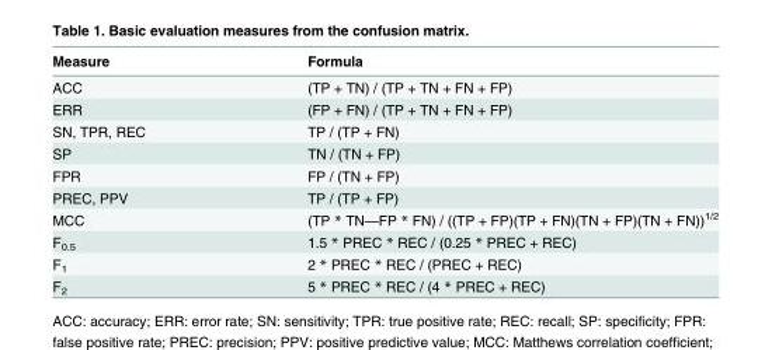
<table><thead><tr><td>Measure</td><td>Formula</td></tr></thead><tbody><tr><td>ACC</td><td>(TP + TN) / (TP + TN + FN + FP)</td></tr><tr><td>ERR</td><td>(FP + FN) / (TP + TN + FN + FP)</td></tr><tr><td>SN, TPR, REC</td><td>TP / (TP + FN)</td></tr><tr><td>SP</td><td>TN / (TN + FP)</td></tr><tr><td>FPR</td><td>FP / (TN + FP)</td></tr><tr><td>PREC, PPV</td><td>TP / (TP + FP)</td></tr><tr><td>MCC</td><td>(TP * TN—FP * FN) / ((TP + FP)(TP + FN)(TN + FP)(TN + FN))<sup>1/2</sup></td></tr><tr><td>F<sub>0.5</sub></td><td>1.5 * PREC * REC / (0.25 * PREC + REC)</td></tr><tr><td>F<sub>1</sub></td><td>2 * PREC * REC / (PREC + REC)</td></tr><tr><td>F<sub>2</sub></td><td>5 * PREC * REC / (4 * PREC + REC)</td></tr></tbody></table>